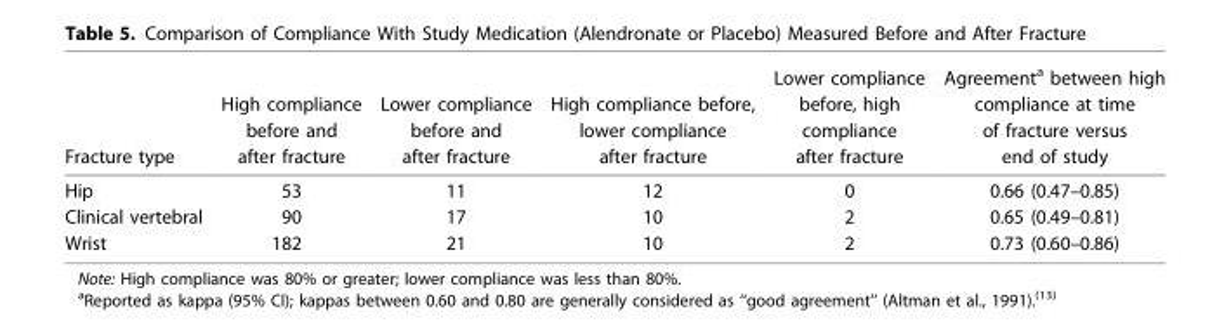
<table><thead><tr><td>Fracture type</td><td>High compliance before and after fracture</td><td>Lower compliance before and after fracture</td><td>High compliance before, lower compliance after fracture</td><td>Lower compliance before, high compliance after fracture</td><td>Agreement<sup>a</sup> between high compliance at time of fracture versus end of study</td></tr></thead><tbody><tr><td>Hip</td><td>53</td><td>11</td><td>12</td><td>0</td><td>0.66 (0.47–0.85)</td></tr><tr><td>Clinical vertebral</td><td>90</td><td>17</td><td>10</td><td>2</td><td>0.65 (0.49–0.81)</td></tr><tr><td>Wrist</td><td>182</td><td>21</td><td>10</td><td>2</td><td>0.73 (0.60–0.86)</td></tr></tbody></table>